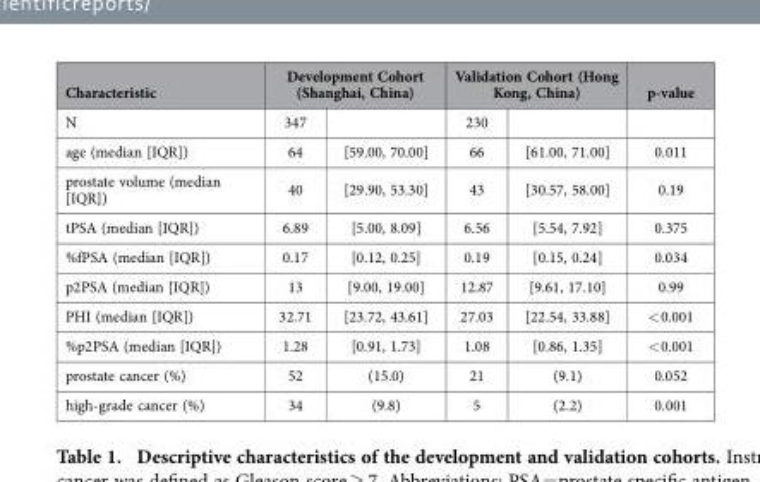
<table><thead><tr><td rowspan="2">Characteristic N</td><td colspan="2">Development Cohort (Shanghai, China)</td><td colspan="2">Validation Cohort (Hong Kong, China)</td><td rowspan="2">p-value</td></tr><tr><td>347</td><td></td><td>230</td><td></td></tr></thead><tbody><tr><td>age (median [IQR])</td><td>64</td><td>[59.00, 70.00]</td><td>66</td><td>[61.00, 71.00]</td><td>0.011</td></tr><tr><td>prostate volume (median [IQR])</td><td>40</td><td>[29.90, 53.30]</td><td>43</td><td>[30.57, 58.00]</td><td>0.19</td></tr><tr><td>tPSA (median [IQR])</td><td>6.89</td><td>[5.00, 8.09]</td><td>6.56</td><td>[5.54, 7.92]</td><td>0.375</td></tr><tr><td>%fPSA (median [IQR])</td><td>0.17</td><td>[0.12, 0.25]</td><td>0.19</td><td>[0.15, 0.24]</td><td>0.034</td></tr><tr><td>p2PSA (median [IQR])</td><td>13</td><td>[9.00, 19.00]</td><td>12.87</td><td>[9.61, 17.10]</td><td>0.99</td></tr><tr><td>PHI (median [IQR])</td><td>32.71</td><td>[23.72, 43.61]</td><td>27.03</td><td>[22.54, 33.88]</td><td>&lt; 0.001</td></tr><tr><td>%p2PSA (median [IQR])</td><td>1.28</td><td>[0.91, 1.73]</td><td>1.08</td><td>[0.86, 1.35]</td><td>&lt; 0.001</td></tr><tr><td>prostate cancer (%)</td><td>52</td><td>(15.0)</td><td>21</td><td>(9.1)</td><td>0.052</td></tr><tr><td>high-grade cancer (%)</td><td>34</td><td>(9.8)</td><td>5</td><td>(2.2)</td><td>0.001</td></tr></tbody></table>